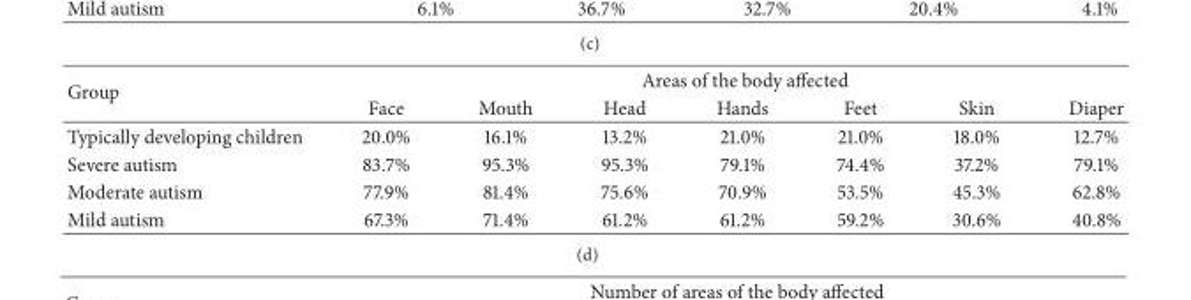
<table><thead><tr><td rowspan="2">Group</td><td colspan="7">Areas of the body affected</td></tr><tr><td>Face</td><td>Mouth</td><td>Head</td><td>Hands</td><td>Feet</td><td>Skin</td><td>Diaper</td></tr></thead><tbody><tr><td>Typically developing children</td><td>20.0%</td><td>16.1%</td><td>13.2%</td><td>21.0%</td><td>21.0%</td><td>18.0%</td><td>12.7%</td></tr><tr><td>Severe autism</td><td>83.7%</td><td>95.3%</td><td>95.3%</td><td>79.1%</td><td>74.4%</td><td>37.2%</td><td>79.1%</td></tr><tr><td>Moderate autism</td><td>77.9%</td><td>81.4%</td><td>75.6%</td><td>70.9%</td><td>53.5%</td><td>45.3%</td><td>62.8%</td></tr><tr><td>Mild autism</td><td>67.3%</td><td>71.4%</td><td>61.2%</td><td>61.2%</td><td>59.2%</td><td>30.6%</td><td>40.8%</td></tr></tbody></table>